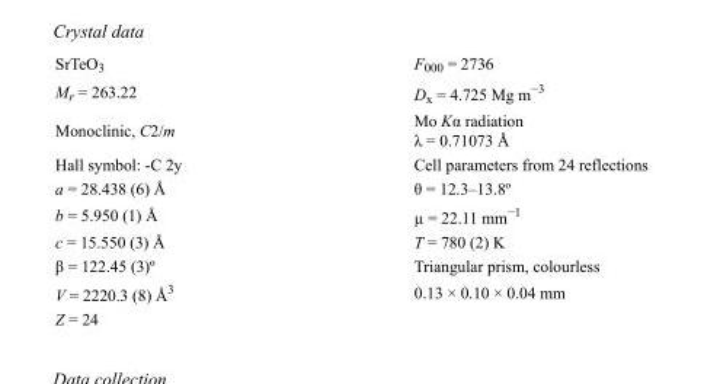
<table><tbody><tr><td>SrTeO<sub>3</sub></td><td>F<sub>000</sub> = 2736</td></tr><tr><td>M<sub>r</sub> = 263.22</td><td>D<sub>x</sub> = 4.725 Mg m<sup>−3</sup></td></tr><tr><td>Monoclinic, C2/m</td><td>Mo Kα radiation λ = 0.71073 Å</td></tr><tr><td>Hall symbol: -C 2y</td><td>Cell parameters from 24 reflections</td></tr><tr><td>a = 28.438 (6) Å</td><td>θ = 12.3–13.8º</td></tr><tr><td>b = 5.950 (1) Å</td><td>µ = 22.11 mm<sup>−1</sup></td></tr><tr><td>c = 15.550 (3) Å</td><td>T = 780 (2) K</td></tr><tr><td>β = 122.45 (3)º</td><td>Triangular prism, colourless</td></tr><tr><td>V = 2220.3 (8) Å<sup>3</sup></td><td>0.13 × 0.10 × 0.04 mm</td></tr><tr><td>Z = 24</td><td></td></tr></tbody></table>